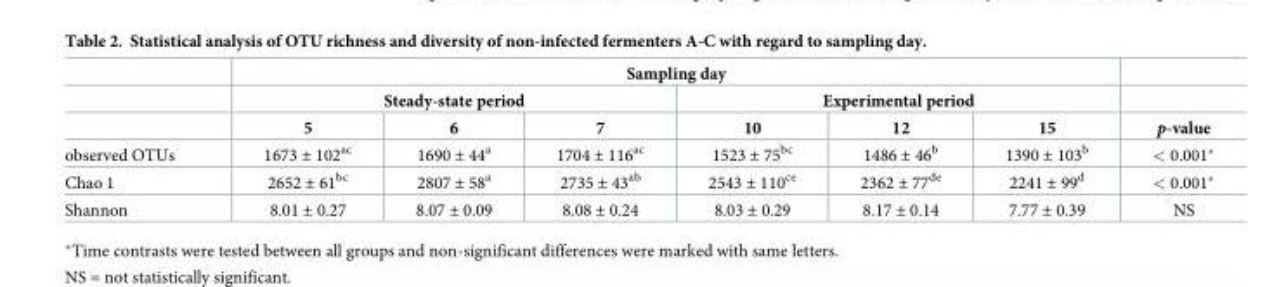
<table><thead><tr><td rowspan="3"></td><td colspan="6">Sampling day</td><td rowspan="3">p-value</td></tr><tr><td colspan="3">Steady-state period</td><td colspan="3">Experimental period</td></tr><tr><td>5</td><td>6</td><td>7</td><td>10</td><td>12</td><td>15</td></tr></thead><tbody><tr><td>observed OTUs</td><td>1673 ± 102<sup>ac</sup></td><td>1690 ± 44<sup>a</sup></td><td>1704 ± 116<sup>ac</sup></td><td>1523 ± 75<sup>bc</sup></td><td>1486 ± 46<sup>b</sup></td><td>1390 ± 103<sup>b</sup></td><td>&lt; 0.001*</td></tr><tr><td>Chao 1</td><td>2652 ± 61<sup>bc</sup></td><td>2807 ± 58<sup>a</sup></td><td>2735 ± 43<sup>ab</sup></td><td>2543 ± 110<sup>ce</sup></td><td>2362 ± 77<sup>de</sup></td><td>2241 ± 99<sup>d</sup></td><td>&lt; 0.001*</td></tr><tr><td>Shannon</td><td>8.01 ± 0.27</td><td>8.07 ± 0.09</td><td>8.08 ± 0.24</td><td>8.03 ± 0.29</td><td>8.17 ± 0.14</td><td>7.77 ± 0.39</td><td>NS</td></tr></tbody></table>